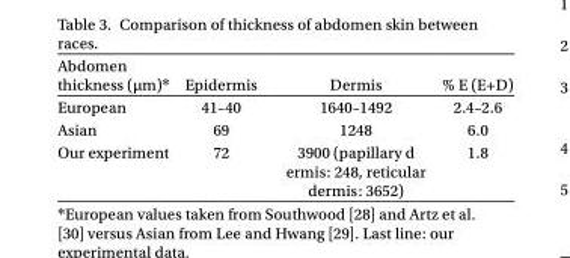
<table><thead><tr><td>Abdomen thickness (µm)*</td><td>Epidermis</td><td>Dermis</td><td>% E (E+D)</td></tr></thead><tbody><tr><td>European</td><td>41–40</td><td>1640–1492</td><td>2.4–2.6</td></tr><tr><td>Asian</td><td>69</td><td>1248</td><td>6.0</td></tr><tr><td>Our experiment</td><td>72</td><td>3900 (papillary d ermis: 248, reticular dermis: 3652)</td><td>1.8</td></tr></tbody></table>